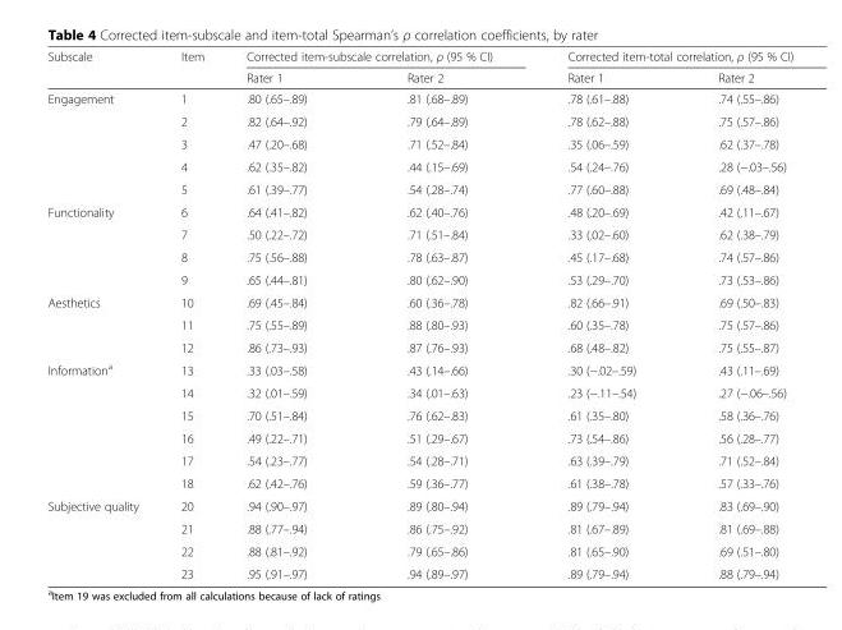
<table><thead><tr><td rowspan="2">Subscale</td><td rowspan="2">Item</td><td colspan="2">Corrected item-subscale correlation, ρ (95 % CI)</td><td colspan="2">Corrected item-total correlation, ρ (95 % CI)</td></tr><tr><td>Rater 1</td><td>Rater 2</td><td>Rater 1</td><td>Rater 2</td></tr></thead><tbody><tr><td rowspan="5">Engagement</td><td>1</td><td>.80 (.65–.89)</td><td>.81 (.68–.89)</td><td>.78 (.61–.88)</td><td>.74 (.55–.86)</td></tr><tr><td>2</td><td>.82 (.64–.92)</td><td>.79 (.64–.89)</td><td>.78 (.62–.88)</td><td>.75 (.57–.86)</td></tr><tr><td>3</td><td>.47 (.20–.68)</td><td>.71 (.52–.84)</td><td>.35 (.06–.59)</td><td>.62 (.37–.78)</td></tr><tr><td>4</td><td>.62 (.35–.82)</td><td>.44 (.15–.69)</td><td>.54 (.24–.76)</td><td>.28 (−.03–.56)</td></tr><tr><td>5</td><td>.61 (.39–.77)</td><td>.54 (.28–.74)</td><td>.77 (.60–.88)</td><td>.69 (.48–.84)</td></tr><tr><td rowspan="4">Functionality</td><td>6</td><td>.64 (.41–.82)</td><td>.62 (.40–.76)</td><td>.48 (.20–.69)</td><td>.42 (.11–.67)</td></tr><tr><td>7</td><td>.50 (.22–.72)</td><td>.71 (.51–.84)</td><td>.33 (.02–.60)</td><td>.62 (.38–.79)</td></tr><tr><td>8</td><td>.75 (.56–.88)</td><td>.78 (.63–.87)</td><td>.45 (.17–.68)</td><td>.74 (.57–.86)</td></tr><tr><td>9</td><td>.65 (.44–.81)</td><td>.80 (.62–.90)</td><td>.53 (.29–.70)</td><td>.73 (.53–.86)</td></tr><tr><td rowspan="3">Aesthetics</td><td>10</td><td>.69 (.45–.84)</td><td>.60 (.36–.78)</td><td>.82 (.66–.91)</td><td>.69 (.50–.83)</td></tr><tr><td>11</td><td>.75 (.55–.89)</td><td>.88 (.80–.93)</td><td>.60 (.35–.78)</td><td>.75 (.57–.86)</td></tr><tr><td>12</td><td>.86 (.73–.93)</td><td>.87 (.76–.93)</td><td>.68 (.48–.82)</td><td>.75 (.55–.87)</td></tr><tr><td rowspan="6">Information<sup>a</sup></td><td>13</td><td>.33 (.03–.58)</td><td>.43 (.14–.66)</td><td>.30 (−.02–.59)</td><td>.43 (.11–.69)</td></tr><tr><td>14</td><td>.32 (.01–.59)</td><td>.34 (.01–.63)</td><td>.23 (−.11–.54)</td><td>.27 (−.06–.56)</td></tr><tr><td>15</td><td>.70 (.51–.84)</td><td>.76 (.62–.83)</td><td>.61 (.35–.80)</td><td>.58 (.36–.76)</td></tr><tr><td>16</td><td>.49 (.22–.71)</td><td>.51 (.29–.67)</td><td>.73 (.54–.86)</td><td>.56 (.28–.77)</td></tr><tr><td>17</td><td>.54 (.23–.77)</td><td>.54 (.28–.71)</td><td>.63 (.39–.79)</td><td>.71 (.52–.84)</td></tr><tr><td>18</td><td>.62 (.42–.76)</td><td>.59 (.36–.77)</td><td>.61 (.38–.78)</td><td>.57 (.33–.76)</td></tr><tr><td rowspan="4">Subjective quality</td><td>20</td><td>.94 (.90–.97)</td><td>.89 (.80–.94)</td><td>.89 (.79–.94)</td><td>.83 (.69–.90)</td></tr><tr><td>21</td><td>.88 (.77–.94)</td><td>.86 (.75–.92)</td><td>.81 (.67–.89)</td><td>.81 (.69–.88)</td></tr><tr><td>22</td><td>.88 (.81–.92)</td><td>.79 (.65–.86)</td><td>.81 (.65–.90)</td><td>.69 (.51–.80)</td></tr><tr><td>23</td><td>.95 (.91–.97)</td><td>.94 (.89–.97)</td><td>.89 (.79–.94)</td><td>.88 (.79–.94)</td></tr></tbody></table>